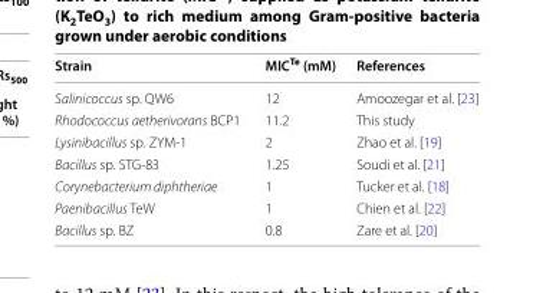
<table><thead><tr><td>Strain</td><td>MIC<sup>Te</sup> (mM)</td><td>References</td></tr></thead><tbody><tr><td>Salinicoccus sp. QW6</td><td>12</td><td>Amoozegar et al. [23]</td></tr><tr><td>Rhodococcus aetherivorans BCP1</td><td>11.2</td><td>This study</td></tr><tr><td>Lysinibacillus sp. ZYM-1</td><td>2</td><td>Zhao et al. [19]</td></tr><tr><td>Bacillus sp. STG-83</td><td>1.25</td><td>Soudi et al. [21]</td></tr><tr><td>Corynebacterium diphtheriae</td><td>1</td><td>Tucker et al. [18]</td></tr><tr><td>Paenibacillus TeW</td><td>1</td><td>Chien et al. [22]</td></tr><tr><td>Bacillus sp. BZ</td><td>0.8</td><td>Zare et al. [20]</td></tr></tbody></table>